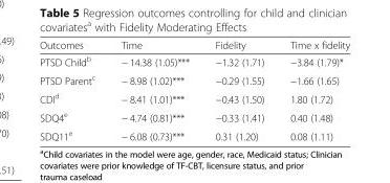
<table><thead><tr><td>Outcomes</td><td>Time</td><td>Fidelity</td><td>Time x fidelity</td></tr></thead><tbody><tr><td>PTSD Child<sup>b</sup></td><td>− 14.38 (1.05)***</td><td>−1.32 (1.71)</td><td>−3.84 (1.79)*</td></tr><tr><td>PTSD Parent<sup>c</sup></td><td>− 8.98 (1.02)***</td><td>−0.29 (1.55)</td><td>−1.66 (1.65)</td></tr><tr><td>CDI<sup>d</sup></td><td>− 8.41 (1.01)***</td><td>−0.43 (1.50)</td><td>1.80 (1.72)</td></tr><tr><td>SDQ4<sup>e</sup></td><td>− 4.74 (0.81)***</td><td>−0.33 (1.41)</td><td>0.40 (1.48)</td></tr><tr><td>SDQ11<sup>e</sup></td><td>− 6.08 (0.73)***</td><td>0.31 (1.20)</td><td>0.08 (1.11)</td></tr></tbody></table>